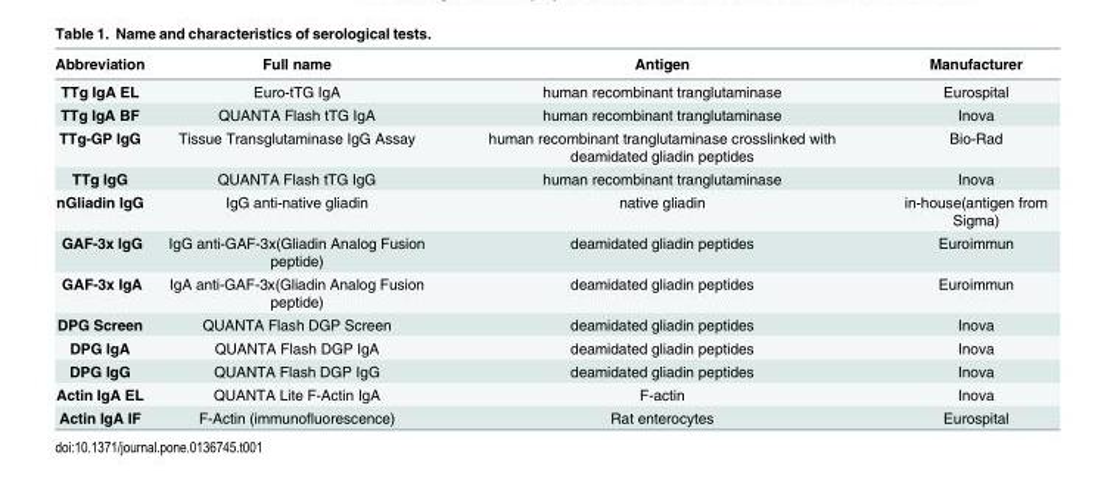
<table><thead><tr><td>Abbreviation</td><td>Full name</td><td>Antigen</td><td>Manufacturer</td></tr></thead><tbody><tr><td>TTg IgA EL</td><td>Euro-tTG IgA</td><td>human recombinant tranglutaminase</td><td>Eurospital</td></tr><tr><td>TTg IgA BF</td><td>QUANTA Flash tTG IgA</td><td>human recombinant tranglutaminase</td><td>Inova</td></tr><tr><td>TTg-GP IgG</td><td>Tissue Transglutaminase IgG Assay</td><td>human recombinant tranglutaminase crosslinked with deamidated gliadin peptides</td><td>Bio-Rad</td></tr><tr><td>TTg IgG</td><td>QUANTA Flash tTG IgG</td><td>human recombinant tranglutaminase</td><td>Inova</td></tr><tr><td>nGliadin IgG</td><td>IgG anti-native gliadin</td><td>native gliadin</td><td>in-house(antigen from Sigma)</td></tr><tr><td>GAF-3x IgG</td><td>IgG anti-GAF-3x(Gliadin Analog Fusion peptide)</td><td>deamidated gliadin peptides</td><td>Euroimmun</td></tr><tr><td>GAF-3x IgA</td><td>IgA anti-GAF-3x(Gliadin Analog Fusion peptide)</td><td>deamidated gliadin peptides</td><td>Euroimmun</td></tr><tr><td>DPG Screen</td><td>QUANTA Flash DGP Screen</td><td>deamidated gliadin peptides</td><td>Inova</td></tr><tr><td>DPG IgA</td><td>QUANTA Flash DGP IgA</td><td>deamidated gliadin peptides</td><td>Inova</td></tr><tr><td>DPG IgG</td><td>QUANTA Flash DGP IgG</td><td>deamidated gliadin peptides</td><td>Inova</td></tr><tr><td>Actin IgA EL</td><td>QUANTA Lite F-Actin IgA</td><td>F-actin</td><td>Inova</td></tr><tr><td>Actin IgA IF</td><td>F-Actin (immunofluorescence)</td><td>Rat enterocytes</td><td>Eurospital</td></tr></tbody></table>